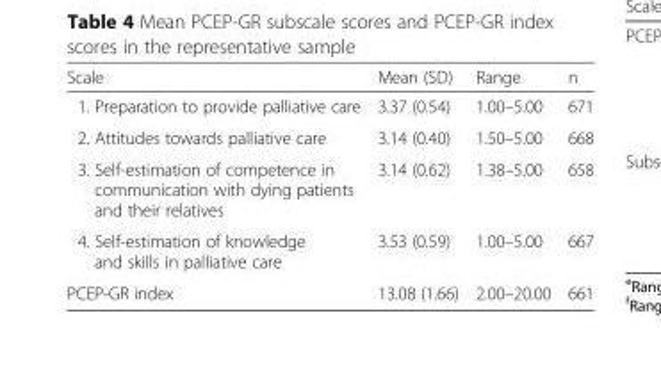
<table><thead><tr><td>Scale</td><td>Mean (SD)</td><td>Range</td><td>n</td></tr></thead><tbody><tr><td>1. Preparation to provide palliative care</td><td>3.37 (0.54)</td><td>1.00–5.00</td><td>671</td></tr><tr><td>2. Attitudes towards palliative care</td><td>3.14 (0.40)</td><td>1.50–5.00</td><td>668</td></tr><tr><td>3. Self-estimation of competence in communication with dying patients and their relatives</td><td>3.14 (0.62)</td><td>1.38–5.00</td><td>658</td></tr><tr><td>4. Self-estimation of knowledge and skills in palliative care</td><td>3.53 (0.59)</td><td>1.00–5.00</td><td>667</td></tr><tr><td>PCEP-GR index</td><td>13.08 (1.66)</td><td>2.00–20.00</td><td>661</td></tr></tbody></table>